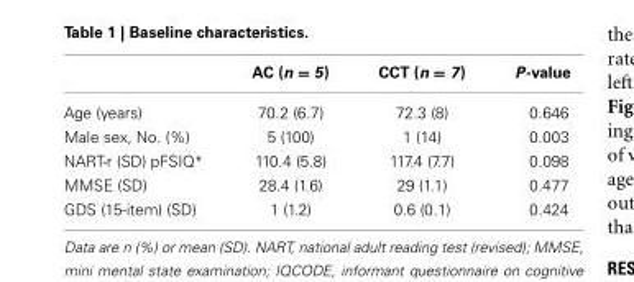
<table><thead><tr><td></td><td>AC (n = 5)</td><td>CCT (n = 7)</td><td>P-value</td></tr></thead><tbody><tr><td>Age (years)</td><td>70.2 (6.7)</td><td>72.3 (8)</td><td>0.646</td></tr><tr><td>Male sex, No. (%)</td><td>5 (100)</td><td>1 (14)</td><td>0.003</td></tr><tr><td>NART-r (SD) pFSIQ*</td><td>110.4 (5.8)</td><td>117.4 (7.7)</td><td>0.098</td></tr><tr><td>MMSE (SD)</td><td>28.4 (1.6)</td><td>29 (1.1)</td><td>0.477</td></tr><tr><td>GDS (15-item) (SD)</td><td>1 (1.2)</td><td>0.6 (0.1)</td><td>0.424</td></tr></tbody></table>